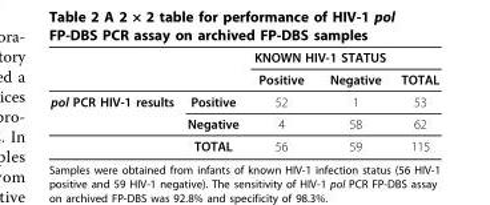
<table><thead><tr><td rowspan="2"></td><td rowspan="2"></td><td colspan="2">KNOWN HIV-1 STATUS</td><td rowspan="2">TOTAL</td></tr><tr><td>Positive</td><td>Negative</td></tr></thead><tbody><tr><td rowspan="3">pol PCR HIV-1 results</td><td>Positive</td><td>52</td><td>1</td><td>53</td></tr><tr><td>Negative</td><td>4</td><td>58</td><td>62</td></tr><tr><td>TOTAL</td><td>56</td><td>59</td><td>115</td></tr></tbody></table>